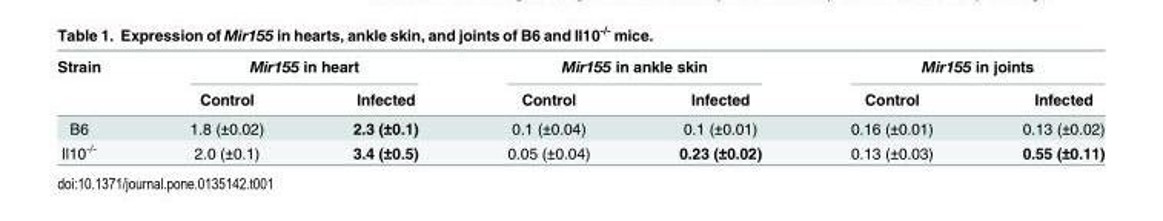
<table><thead><tr><td rowspan="2">Strain</td><td colspan="2">Mir155 in heart</td><td colspan="2">Mir155 in ankle skin</td><td colspan="2">Mir155 in joints</td></tr><tr><td>Control</td><td>Infected</td><td>Control</td><td>Infected</td><td>Control</td><td>Infected</td></tr></thead><tbody><tr><td>B6</td><td>1.8 (±0.02)</td><td>2.3 (±0.1)</td><td>0.1 (±0.04)</td><td>0.1 (±0.01)</td><td>0.16 (±0.01)</td><td>0.13 (±0.02)</td></tr><tr><td>Il10<sup>-/-</sup></td><td>2.0 (±0.1)</td><td>3.4 (±0.5)</td><td>0.05 (±0.04)</td><td>0.23 (±0.02)</td><td>0.13 (±0.03)</td><td>0.55 (±0.11)</td></tr></tbody></table>